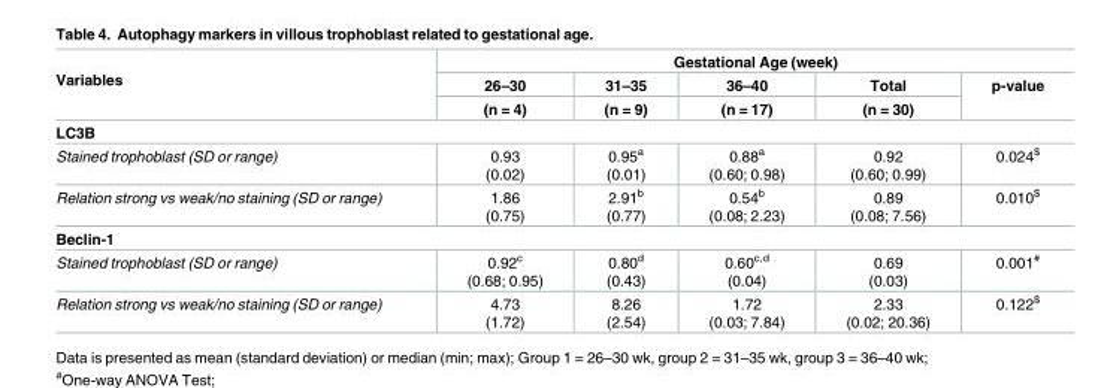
<table><thead><tr><td rowspan="3">Variables</td><td colspan="5">Gestational Age (week)</td></tr><tr><td rowspan="2">26–30 (n = 4)</td><td rowspan="2">31–35 (n = 9)</td><td rowspan="2">36–40 (n = 17)</td><td rowspan="2">Total (n = 30)</td><td rowspan="2">p-value</td></tr><tr></tr></thead><tbody><tr><td colspan="6">LC3B</td></tr><tr><td>Stained trophoblast (SD or range)</td><td>0.93 (0.02)</td><td>0.95<sup>a</sup> (0.01)</td><td>0.88<sup>a</sup> (0.60; 0.98)</td><td>0.92 (0.60; 0.99)</td><td>0.024<sup>$</sup></td></tr><tr><td>Relation strong vs weak/no staining (SD or range)</td><td>1.86 (0.75)</td><td>2.91<sup>b</sup> (0.77)</td><td>0.54<sup>b</sup> (0.08; 2.23)</td><td>0.89 (0.08; 7.56)</td><td>0.010<sup>$</sup></td></tr><tr><td colspan="6">Beclin-1</td></tr><tr><td>Stained trophoblast (SD or range)</td><td>0.92<sup>c</sup> (0.68; 0.95)</td><td>0.80<sup>d</sup> (0.43)</td><td>0.60<sup>c,d</sup> (0.04)</td><td>0.69 (0.03)</td><td>0.001<sup>#</sup></td></tr><tr><td>Relation strong vs weak/no staining (SD or range)</td><td>4.73 (1.72)</td><td>8.26 (2.54)</td><td>1.72 (0.03; 7.84)</td><td>2.33 (0.02; 20.36)</td><td>0.122<sup>$</sup></td></tr></tbody></table>